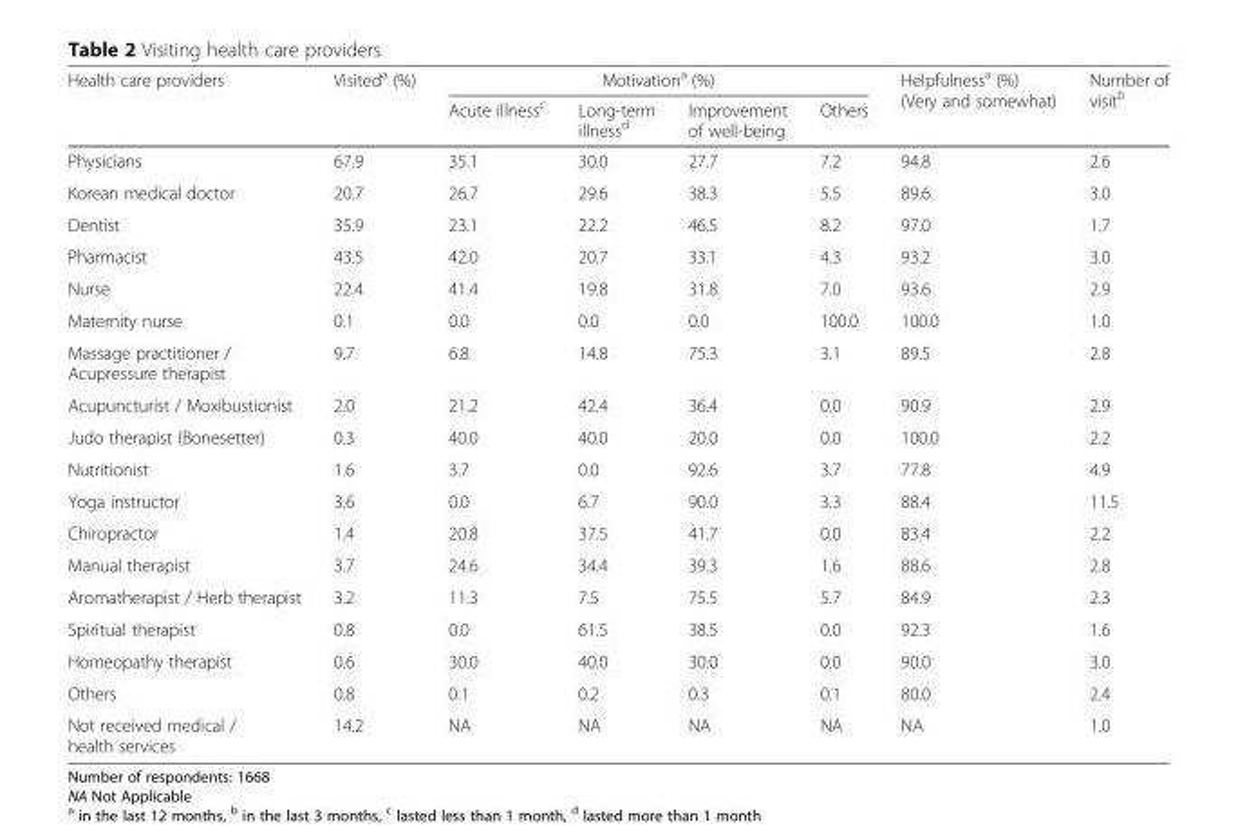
<table><thead><tr><td rowspan="2">Health care providers</td><td rowspan="2">Visited<sup>a</sup> (%)</td><td colspan="4">Motivation<sup>a</sup> (%)</td><td rowspan="2">Helpfulness<sup>a</sup> (%) (Very and somewhat)</td><td rowspan="2">Number of visit<sup>b</sup></td></tr><tr><td>Acute illness<sup>c</sup></td><td>Long-term illness<sup>d</sup></td><td>Improvement of well-being</td><td>Others</td></tr></thead><tbody><tr><td>Physicians</td><td>67.9</td><td>35.1</td><td>30.0</td><td>27.7</td><td>7.2</td><td>94.8</td><td>2.6</td></tr><tr><td>Korean medical doctor</td><td>20.7</td><td>26.7</td><td>29.6</td><td>38.3</td><td>5.5</td><td>89.6</td><td>3.0</td></tr><tr><td>Dentist</td><td>35.9</td><td>23.1</td><td>22.2</td><td>46.5</td><td>8.2</td><td>97.0</td><td>1.7</td></tr><tr><td>Pharmacist</td><td>43.5</td><td>42.0</td><td>20.7</td><td>33.1</td><td>4.3</td><td>93.2</td><td>3.0</td></tr><tr><td>Nurse</td><td>22.4</td><td>41.4</td><td>19.8</td><td>31.8</td><td>7.0</td><td>93.6</td><td>2.9</td></tr><tr><td>Maternity nurse</td><td>0.1</td><td>0.0</td><td>0.0</td><td>0.0</td><td>100.0</td><td>100.0</td><td>1.0</td></tr><tr><td>Massage practitioner / Acupressure therapist</td><td>9.7</td><td>6.8</td><td>14.8</td><td>75.3</td><td>3.1</td><td>89.5</td><td>2.8</td></tr><tr><td>Acupuncturist / Moxibustionist</td><td>2.0</td><td>21.2</td><td>42.4</td><td>36.4</td><td>0.0</td><td>90.9</td><td>2.9</td></tr><tr><td>Judo therapist (Bonesetter)</td><td>0.3</td><td>40.0</td><td>40.0</td><td>20.0</td><td>0.0</td><td>100.0</td><td>2.2</td></tr><tr><td>Nutritionist</td><td>1.6</td><td>3.7</td><td>0.0</td><td>92.6</td><td>3.7</td><td>77.8</td><td>4.9</td></tr><tr><td>Yoga instructor</td><td>3.6</td><td>0.0</td><td>6.7</td><td>90.0</td><td>3.3</td><td>88.4</td><td>11.5</td></tr><tr><td>Chiropractor</td><td>1.4</td><td>20.8</td><td>37.5</td><td>41.7</td><td>0.0</td><td>83.4</td><td>2.2</td></tr><tr><td>Manual therapist</td><td>3.7</td><td>24.6</td><td>34.4</td><td>39.3</td><td>1.6</td><td>88.6</td><td>2.8</td></tr><tr><td>Aromatherapist / Herb therapist</td><td>3.2</td><td>11.3</td><td>7.5</td><td>75.5</td><td>5.7</td><td>84.9</td><td>2.3</td></tr><tr><td>Spiritual therapist</td><td>0.8</td><td>0.0</td><td>61.5</td><td>38.5</td><td>0.0</td><td>92.3</td><td>1.6</td></tr><tr><td>Homeopathy therapist</td><td>0.6</td><td>30.0</td><td>40.0</td><td>30.0</td><td>0.0</td><td>90.0</td><td>3.0</td></tr><tr><td>Others</td><td>0.8</td><td>0.1</td><td>0.2</td><td>0.3</td><td>0.1</td><td>80.0</td><td>2.4</td></tr><tr><td>Not received medical / health services</td><td>14.2</td><td>NA</td><td>NA</td><td>NA</td><td>NA</td><td>NA</td><td>1.0</td></tr></tbody></table>